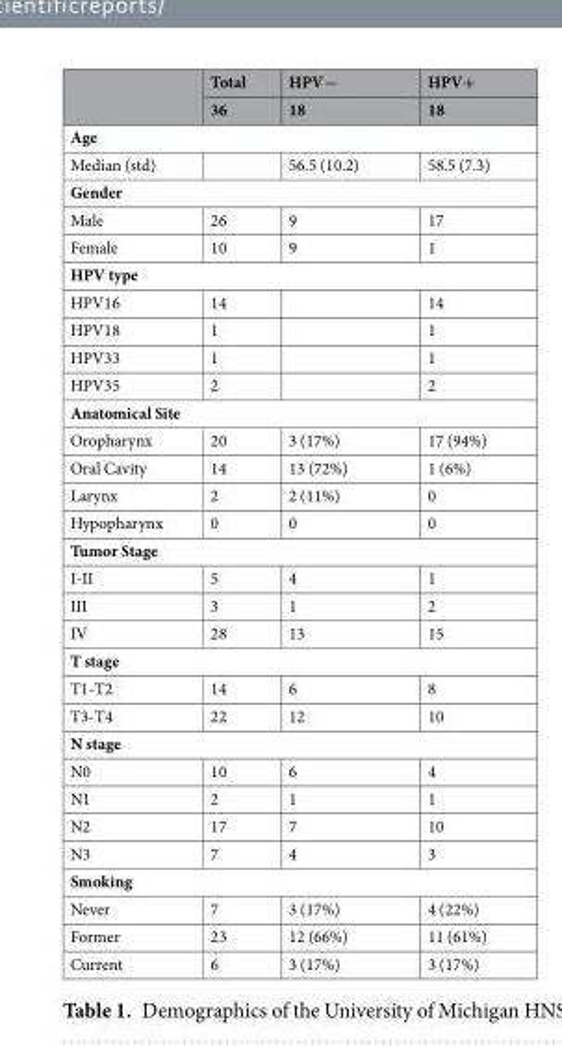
<table><thead><tr><td rowspan="2"></td><td rowspan="2">Total 36</td><td rowspan="2">HPV− 18</td><td rowspan="2">HPV+ 18</td></tr><tr></tr></thead><tbody><tr><td colspan="4">Age</td></tr><tr><td>Median (std)</td><td></td><td>56.5 (10.2)</td><td>58.5 (7.3)</td></tr><tr><td colspan="4">Gender</td></tr><tr><td>Male</td><td>26</td><td>9</td><td>17</td></tr><tr><td>Female</td><td>10</td><td>9</td><td>1</td></tr><tr><td colspan="4">HPV type</td></tr><tr><td>HPV16</td><td>14</td><td></td><td>14</td></tr><tr><td>HPV18</td><td>1</td><td></td><td>1</td></tr><tr><td>HPV33</td><td>1</td><td></td><td>1</td></tr><tr><td>HPV35</td><td>2</td><td></td><td>2</td></tr><tr><td colspan="4">Anatomical Site</td></tr><tr><td>Oropharynx</td><td>20</td><td>3 (17%)</td><td>17 (94%)</td></tr><tr><td>Oral Cavity</td><td>14</td><td>13 (72%)</td><td>1 (6%)</td></tr><tr><td>Larynx</td><td>2</td><td>2 (11%)</td><td>0</td></tr><tr><td>Hypopharynx</td><td>0</td><td>0</td><td>0</td></tr><tr><td colspan="4">Tumor Stage</td></tr><tr><td>I-II</td><td>5</td><td>4</td><td>1</td></tr><tr><td>III</td><td>3</td><td>1</td><td>2</td></tr><tr><td>IV</td><td>28</td><td>13</td><td>15</td></tr><tr><td colspan="4">T stage</td></tr><tr><td>T1-T2</td><td>14</td><td>6</td><td>8</td></tr><tr><td>T3-T4</td><td>22</td><td>12</td><td>10</td></tr><tr><td colspan="4">N stage</td></tr><tr><td>N0</td><td>10</td><td>6</td><td>4</td></tr><tr><td>N1</td><td>2</td><td>1</td><td>1</td></tr><tr><td>N2</td><td>17</td><td>7</td><td>10</td></tr><tr><td>N3</td><td>7</td><td>4</td><td>3</td></tr><tr><td colspan="4">Smoking</td></tr><tr><td>Never</td><td>7</td><td>3 (17%)</td><td>4 (22%)</td></tr><tr><td>Former</td><td>23</td><td>12 (66%)</td><td>11 (61%)</td></tr><tr><td>Current</td><td>6</td><td>3 (17%)</td><td>3 (17%)</td></tr></tbody></table>